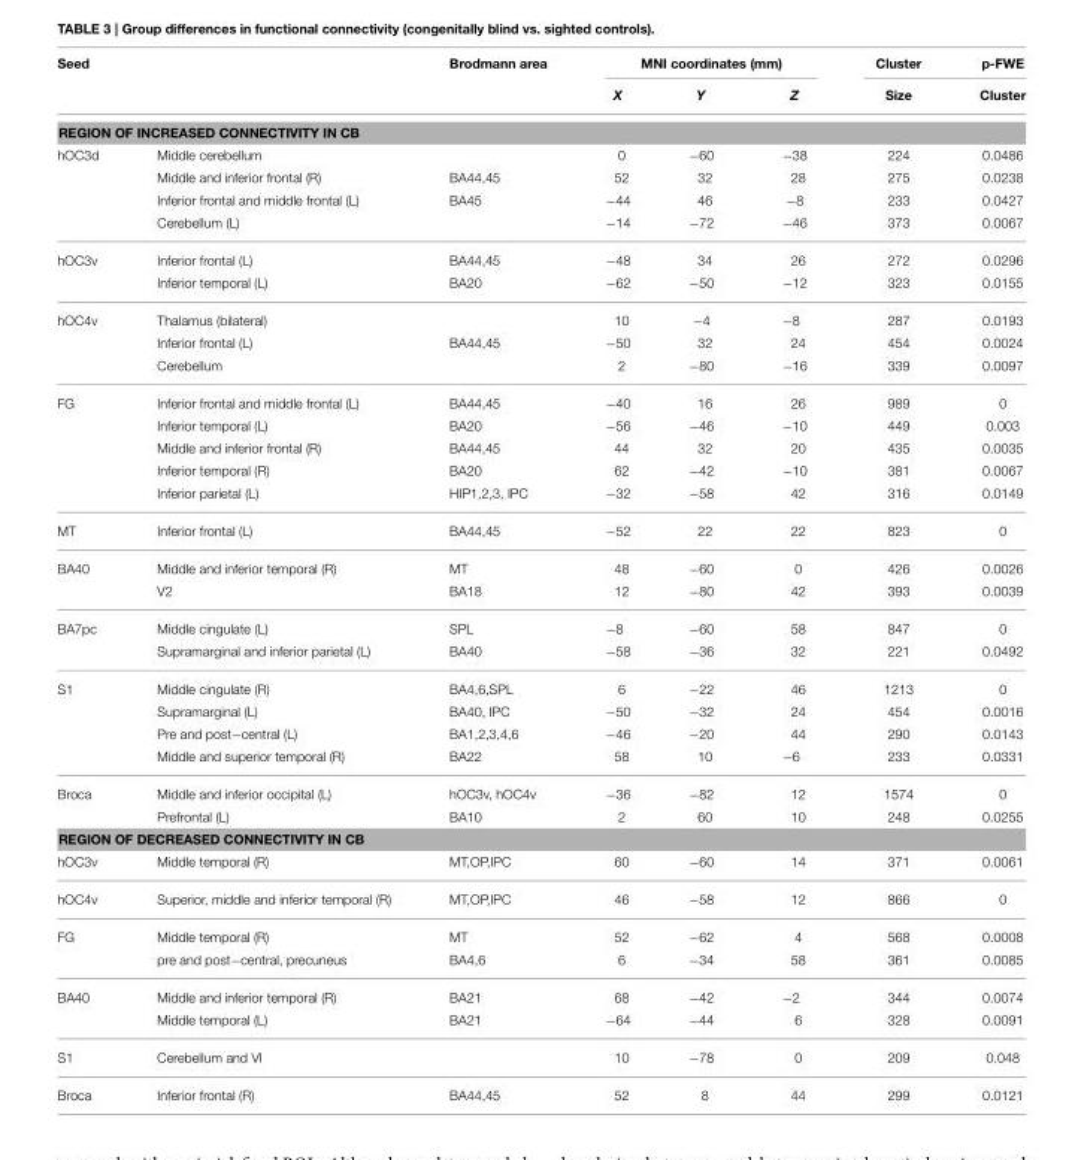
<table><thead><tr><td rowspan="2">Seed</td><td rowspan="2"></td><td rowspan="2">Brodmann area</td><td colspan="3">MNI coordinates (mm)</td><td rowspan="2">Cluster Size</td><td rowspan="2">p-FWE Cluster</td></tr><tr><td>X</td><td>Y</td><td>Z</td></tr></thead><tbody><tr><td colspan="8">REGION OF INCREASED CONNECTIVITY IN CB</td></tr><tr><td rowspan="4">hOC3d</td><td>Middle cerebellum</td><td></td><td>0</td><td>−60</td><td>−38</td><td>224</td><td>0.0486</td></tr><tr><td>Middle and inferior frontal (R)</td><td>BA44,45</td><td>52</td><td>32</td><td>28</td><td>275</td><td>0.0238</td></tr><tr><td>Inferior frontal and middle frontal (L)</td><td>BA45</td><td>−44</td><td>46</td><td>−8</td><td>233</td><td>0.0427</td></tr><tr><td>Cerebellum (L)</td><td></td><td>−14</td><td>−72</td><td>−46</td><td>373</td><td>0.0067</td></tr><tr><td rowspan="2">hOC3v</td><td>Inferior frontal (L)</td><td>BA44,45</td><td>−48</td><td>34</td><td>26</td><td>272</td><td>0.0296</td></tr><tr><td>Inferior temporal (L)</td><td>BA20</td><td>−62</td><td>−50</td><td>−12</td><td>323</td><td>0.0155</td></tr><tr><td rowspan="3">hOC4v</td><td>Thalamus (bilateral)</td><td></td><td>10</td><td>−4</td><td>−8</td><td>287</td><td>0.0193</td></tr><tr><td>Inferior frontal (L)</td><td>BA44,45</td><td>−50</td><td>32</td><td>24</td><td>454</td><td>0.0024</td></tr><tr><td>Cerebellum</td><td></td><td>2</td><td>−80</td><td>−16</td><td>339</td><td>0.0097</td></tr><tr><td rowspan="5">FG</td><td>Inferior frontal and middle frontal (L)</td><td>BA44,45</td><td>−40</td><td>16</td><td>26</td><td>989</td><td>0</td></tr><tr><td>Inferior temporal (L)</td><td>BA20</td><td>−56</td><td>−46</td><td>−10</td><td>449</td><td>0.003</td></tr><tr><td>Middle and inferior frontal (R)</td><td>BA44,45</td><td>44</td><td>32</td><td>20</td><td>435</td><td>0.0035</td></tr><tr><td>Inferior temporal (R)</td><td>BA20</td><td>62</td><td>−42</td><td>−10</td><td>381</td><td>0.0067</td></tr><tr><td>Inferior parietal (L)</td><td>HIP1,2,3, IPC</td><td>−32</td><td>−58</td><td>42</td><td>316</td><td>0.0149</td></tr><tr><td>MT</td><td>Inferior frontal (L)</td><td>BA44,45</td><td>−52</td><td>22</td><td>22</td><td>823</td><td>0</td></tr><tr><td rowspan="2">BA40</td><td>Middle and inferior temporal (R)</td><td>MT</td><td>48</td><td>−60</td><td>0</td><td>426</td><td>0.0026</td></tr><tr><td>V2</td><td>BA18</td><td>12</td><td>−80</td><td>42</td><td>393</td><td>0.0039</td></tr><tr><td rowspan="2">BA7pc</td><td>Middle cingulate (L)</td><td>SPL</td><td>−8</td><td>−60</td><td>58</td><td>847</td><td>0</td></tr><tr><td>Supramarginal and inferior parietal (L)</td><td>BA40</td><td>−58</td><td>−36</td><td>32</td><td>221</td><td>0.0492</td></tr><tr><td rowspan="4">S1</td><td>Middle cingulate (R)</td><td>BA4,6,SPL</td><td>6</td><td>−22</td><td>46</td><td>1213</td><td>0</td></tr><tr><td>Supramarginal (L)</td><td>BA40, IPC</td><td>−50</td><td>−32</td><td>24</td><td>454</td><td>0.0016</td></tr><tr><td>Pre and post−central (L)</td><td>BA1,2,3,4,6</td><td>−46</td><td>−20</td><td>44</td><td>290</td><td>0.0143</td></tr><tr><td>Middle and superior temporal (R)</td><td>BA22</td><td>58</td><td>10</td><td>−6</td><td>233</td><td>0.0331</td></tr><tr><td rowspan="2">Broca</td><td>Middle and inferior occipital (L)</td><td>hOC3v, hOC4v</td><td>−36</td><td>−82</td><td>12</td><td>1574</td><td>0</td></tr><tr><td>Prefrontal (L)</td><td>BA10</td><td>2</td><td>60</td><td>10</td><td>248</td><td>0.0255</td></tr><tr><td colspan="8">REGION OF DECREASED CONNECTIVITY IN CB</td></tr><tr><td>hOC3v</td><td>Middle temporal (R)</td><td>MT,OP,IPC</td><td>60</td><td>−60</td><td>14</td><td>371</td><td>0.0061</td></tr><tr><td>hOC4v</td><td>Superior, middle and inferior temporal (R)</td><td>MT,OP,IPC</td><td>46</td><td>−58</td><td>12</td><td>866</td><td>0</td></tr><tr><td rowspan="2">FG</td><td>Middle temporal (R)</td><td>MT</td><td>52</td><td>−62</td><td>4</td><td>568</td><td>0.0008</td></tr><tr><td>pre and post−central, precuneus</td><td>BA4,6</td><td>6</td><td>−34</td><td>58</td><td>361</td><td>0.0085</td></tr><tr><td rowspan="2">BA40</td><td>Middle and inferior temporal (R)</td><td>BA21</td><td>68</td><td>−42</td><td>−2</td><td>344</td><td>0.0074</td></tr><tr><td>Middle temporal (L)</td><td>BA21</td><td>−64</td><td>−44</td><td>6</td><td>328</td><td>0.0091</td></tr><tr><td>S1</td><td>Cerebellum and Vl</td><td></td><td>10</td><td>−78</td><td>0</td><td>209</td><td>0.048</td></tr><tr><td>Broca</td><td>Inferior frontal (R)</td><td>BA44,45</td><td>52</td><td>8</td><td>44</td><td>299</td><td>0.0121</td></tr></tbody></table>